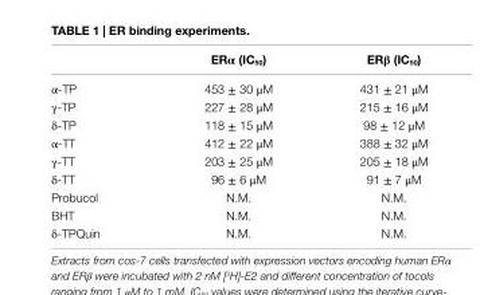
<table><thead><tr><td></td><td>erα (ic<sub>50</sub>)</td><td>erβ (ic<sub>50</sub>)</td></tr></thead><tbody><tr><td>α-TP</td><td>453 ± 30 μM</td><td>431 ± 21 μM</td></tr><tr><td>γ-TP</td><td>227 ± 28 μM</td><td>215 ± 16 μM</td></tr><tr><td>δ-TP</td><td>118 ± 15 μM</td><td>98 ± 12 μM</td></tr><tr><td>α-TT</td><td>412 ± 22 μM</td><td>388 ± 32 μM</td></tr><tr><td>γ-TT</td><td>203 ± 25 μM</td><td>205 ± 18 μM</td></tr><tr><td>δ-TT</td><td>96 ± 6 μM</td><td>91 ± 7 μM</td></tr><tr><td>Probucol</td><td>N.M.</td><td>N.M.</td></tr><tr><td>BHT</td><td>N.M.</td><td>N.M.</td></tr><tr><td>δ-TPQuin</td><td>N.M.</td><td>N.M.</td></tr></tbody></table>